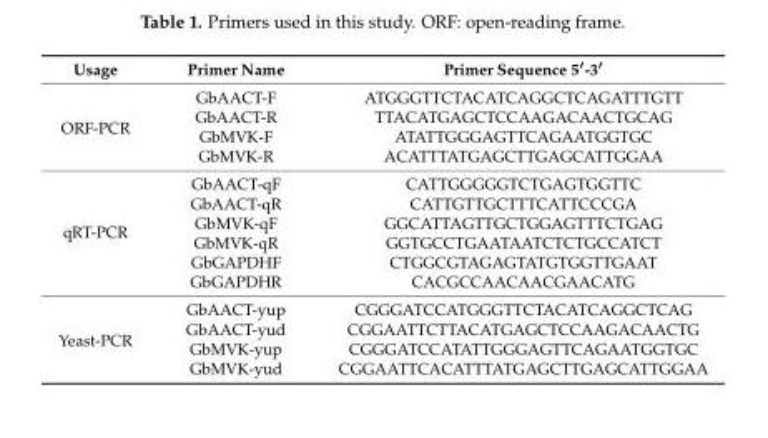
<table><thead><tr><td>Usage</td><td>Primer Name</td><td>Primer Sequence 5′-3′</td></tr></thead><tbody><tr><td rowspan="4">ORF-PCR</td><td>GbAACT-F</td><td>ATGGGTTCTACATCAGGCTCAGATTTGTT</td></tr><tr><td>GbAACT-R</td><td>TTACATGAGCTCCAAGACAACTGCAG</td></tr><tr><td>GbMVK-F</td><td>ATATTGGGAGTTCAGAATGGTGC</td></tr><tr><td>GbMVK-R</td><td>ACATTTATGAGCTTGAGCATTGGAA</td></tr><tr><td rowspan="6">qRT-PCR</td><td>GbAACT-qF</td><td>CATTGGGGGTCTGAGTGGTTC</td></tr><tr><td>GbAACT-qR</td><td>CATTGTTGCTTTCATTCCCGA</td></tr><tr><td>GbMVK-qF</td><td>GGCATTAGTTGCTGGAGTTTCTGAG</td></tr><tr><td>GbMVK-qR</td><td>GGTGCCTGAATAATCTCTGCCATCT</td></tr><tr><td>GbGAPDHF</td><td>CTGGCGTAGAGTATGTGGTTGAAT</td></tr><tr><td>GbGAPDHR</td><td>CACGCCAACAACGAACATG</td></tr><tr><td rowspan="4">Yeast-PCR</td><td>GbAACT-yup</td><td>CGGGATCCATGGGTTCTACATCAGGCTCAG</td></tr><tr><td>GbAACT-yud</td><td>CGGAATTCTTACATGAGCTCCAAGACAACTG</td></tr><tr><td>GbMVK-yup</td><td>CGGGATCCATATTGGGAGTTCAGAATGGTGC</td></tr><tr><td>GbMVK-yud</td><td>CGGAATTCACATTTATGAGCTTGAGCATTGGAA</td></tr></tbody></table>